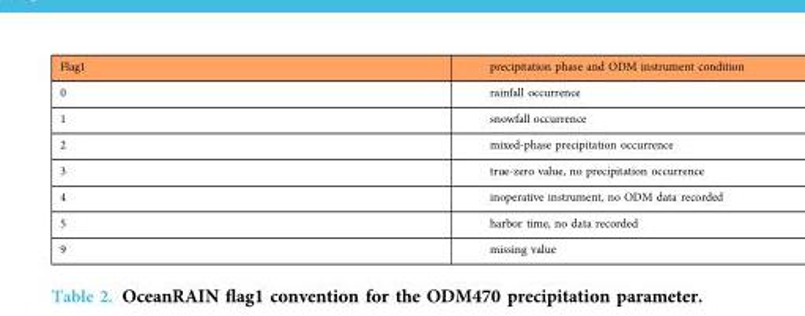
<table><thead><tr><td>Flag1</td><td>precipitation phase and ODM instrument condition</td></tr></thead><tbody><tr><td>0</td><td>rainfall occurrence</td></tr><tr><td>1</td><td>snowfall occurrence</td></tr><tr><td>2</td><td>mixed-phase precipitation occurrence</td></tr><tr><td>3</td><td>true-zero value, no precipitation occurrence</td></tr><tr><td>4</td><td>inoperative instrument, no ODM data recorded</td></tr><tr><td>5</td><td>harbor time, no data recorded</td></tr><tr><td>9</td><td>missing value</td></tr></tbody></table>